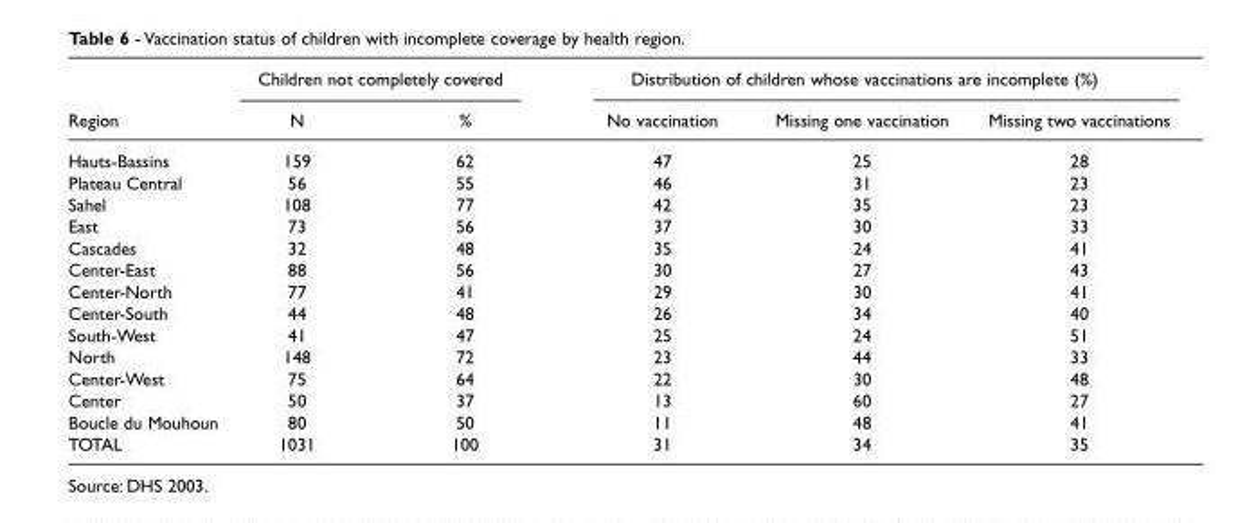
<table><thead><tr><td rowspan="2">Region</td><td colspan="2">Children not completely covered</td><td colspan="3">Distribution of children whose vaccinations are incomplete (%)</td></tr><tr><td>N</td><td>%</td><td>No vaccination</td><td>Missing one vaccination</td><td>Missing two vaccinations</td></tr></thead><tbody><tr><td>Hauts-Bassins</td><td>159</td><td>62</td><td>47</td><td>25</td><td>28</td></tr><tr><td>Plateau Central</td><td>56</td><td>55</td><td>46</td><td>31</td><td>23</td></tr><tr><td>Sahel</td><td>108</td><td>77</td><td>42</td><td>35</td><td>23</td></tr><tr><td>East</td><td>73</td><td>56</td><td>37</td><td>30</td><td>33</td></tr><tr><td>Cascades</td><td>32</td><td>48</td><td>35</td><td>24</td><td>41</td></tr><tr><td>Center-East</td><td>88</td><td>56</td><td>30</td><td>27</td><td>43</td></tr><tr><td>Center-North</td><td>77</td><td>41</td><td>29</td><td>30</td><td>41</td></tr><tr><td>Center-South</td><td>44</td><td>48</td><td>26</td><td>34</td><td>40</td></tr><tr><td>South-West</td><td>41</td><td>47</td><td>25</td><td>24</td><td>51</td></tr><tr><td>North</td><td>148</td><td>72</td><td>23</td><td>44</td><td>33</td></tr><tr><td>Center-West</td><td>75</td><td>64</td><td>22</td><td>30</td><td>48</td></tr><tr><td>Center</td><td>50</td><td>37</td><td>13</td><td>60</td><td>27</td></tr><tr><td>Boucle du Mouhoun</td><td>80</td><td>50</td><td>11</td><td>48</td><td>41</td></tr><tr><td>TOTAL</td><td>1031</td><td>100</td><td>31</td><td>34</td><td>35</td></tr></tbody></table>